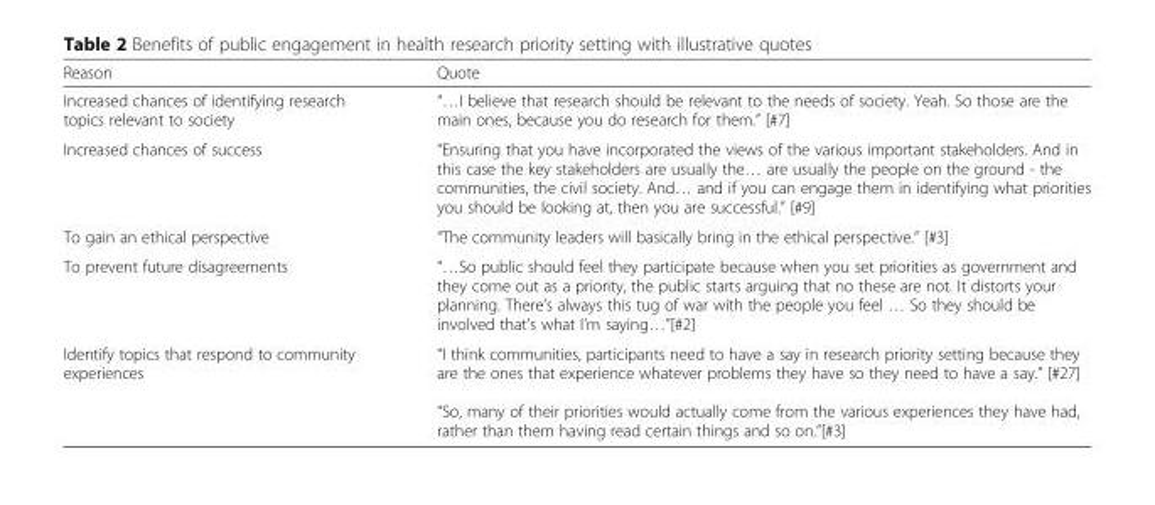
<table><thead><tr><td>Reason</td><td>Quote</td></tr></thead><tbody><tr><td>Increased chances of identifying research topics relevant to society</td><td>“…I believe that research should be relevant to the needs of society. Yeah. So those are the main ones, because you do research for them.” [#7]</td></tr><tr><td>Increased chances of success</td><td>“Ensuring that you have incorporated the views of the various important stakeholders. And in this case the key stakeholders are usually the… are usually the people on the ground - the communities, the civil society. And… and if you can engage them in identifying what priorities you should be looking at, then you are successful.” [#9]</td></tr><tr><td>To gain an ethical perspective</td><td>“The community leaders will basically bring in the ethical perspective.” [#3]</td></tr><tr><td>To prevent future disagreements</td><td>“…So public should feel they participate because when you set priorities as government and they come out as a priority, the public starts arguing that no these are not. It distorts your planning. There’s always this tug of war with the people you feel … So they should be involved that’s what I’m saying…”[#2]</td></tr><tr><td>Identify topics that respond to community experiences</td><td>“I think communities, participants need to have a say in research priority setting because they are the ones that experience whatever problems they have so they need to have a say.” [#27] “So, many of their priorities would actually come from the various experiences they have had, rather than them having read certain things and so on.”[#3]</td></tr></tbody></table>